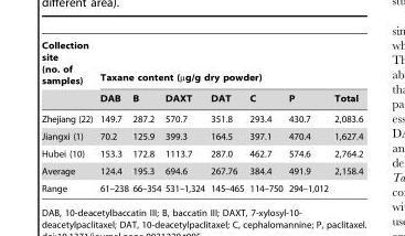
<table><thead><tr><td rowspan="2">Collection site (no. of samples)</td><td colspan="7">Taxane content (µg/g dry powder)</td></tr><tr><td>DAB</td><td>B</td><td>DAXT</td><td>DAT</td><td>C</td><td>P</td><td>Total</td></tr></thead><tbody><tr><td>Zhejiang (22)</td><td>149.7</td><td>287.2</td><td>570.7</td><td>351.8</td><td>293.4</td><td>430.7</td><td>2,083.6</td></tr><tr><td>Jiangxi (1)</td><td>70.2</td><td>125.9</td><td>399.3</td><td>164.5</td><td>397.1</td><td>470.4</td><td>1,627.4</td></tr><tr><td>Hubei (10)</td><td>153.3</td><td>172.8</td><td>1113.7</td><td>287.0</td><td>462.7</td><td>574.6</td><td>2,764.2</td></tr><tr><td>Average</td><td>124.4</td><td>195.3</td><td>694.6</td><td>267.76</td><td>384.4</td><td>491.9</td><td>2,158.4</td></tr><tr><td>Range</td><td>61–238</td><td>66–354</td><td>531–1,324</td><td>145–465</td><td>114–750</td><td>294–1,012</td><td></td></tr></tbody></table>